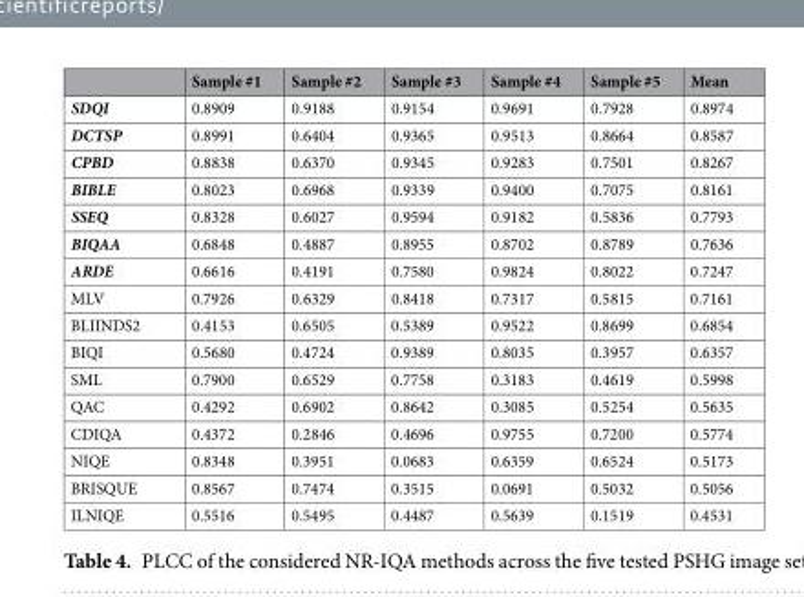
<table><thead><tr><td></td><td>Sample #1</td><td>Sample #2</td><td>Sample #3</td><td>Sample #4</td><td>Sample #5</td><td>Mean</td></tr></thead><tbody><tr><td>SDQI</td><td>0.8909</td><td>0.9188</td><td>0.9154</td><td>0.9691</td><td>0.7928</td><td>0.8974</td></tr><tr><td>DCTSP</td><td>0.8991</td><td>0.6404</td><td>0.9365</td><td>0.9513</td><td>0.8664</td><td>0.8587</td></tr><tr><td>CPBD</td><td>0.8838</td><td>0.6370</td><td>0.9345</td><td>0.9283</td><td>0.7501</td><td>0.8267</td></tr><tr><td>BIBLE</td><td>0.8023</td><td>0.6968</td><td>0.9339</td><td>0.9400</td><td>0.7075</td><td>0.8161</td></tr><tr><td>SSEQ</td><td>0.8328</td><td>0.6027</td><td>0.9594</td><td>0.9182</td><td>0.5836</td><td>0.7793</td></tr><tr><td>BIQAA</td><td>0.6848</td><td>0.4887</td><td>0.8955</td><td>0.8702</td><td>0.8789</td><td>0.7636</td></tr><tr><td>ARDE</td><td>0.6616</td><td>0.4191</td><td>0.7580</td><td>0.9824</td><td>0.8022</td><td>0.7247</td></tr><tr><td>MLV</td><td>0.7926</td><td>0.6329</td><td>0.8418</td><td>0.7317</td><td>0.5815</td><td>0.7161</td></tr><tr><td>BLIINDS2</td><td>0.4153</td><td>0.6505</td><td>0.5389</td><td>0.9522</td><td>0.8699</td><td>0.6854</td></tr><tr><td>BIQI</td><td>0.5680</td><td>0.4724</td><td>0.9389</td><td>0.8035</td><td>0.3957</td><td>0.6357</td></tr><tr><td>SML</td><td>0.7900</td><td>0.6529</td><td>0.7758</td><td>0.3183</td><td>0.4619</td><td>0.5998</td></tr><tr><td>QAC</td><td>0.4292</td><td>0.6902</td><td>0.8642</td><td>0.3085</td><td>0.5254</td><td>0.5635</td></tr><tr><td>CDIQA</td><td>0.4372</td><td>0.2846</td><td>0.4696</td><td>0.9755</td><td>0.7200</td><td>0.5774</td></tr><tr><td>NIQE</td><td>0.8348</td><td>0.3951</td><td>0.0683</td><td>0.6359</td><td>0.6524</td><td>0.5173</td></tr><tr><td>BRISQUE</td><td>0.8567</td><td>0.7474</td><td>0.3515</td><td>0.0691</td><td>0.5032</td><td>0.5056</td></tr><tr><td>ILNIQE</td><td>0.5516</td><td>0.5495</td><td>0.4487</td><td>0.5639</td><td>0.1519</td><td>0.4531</td></tr></tbody></table>